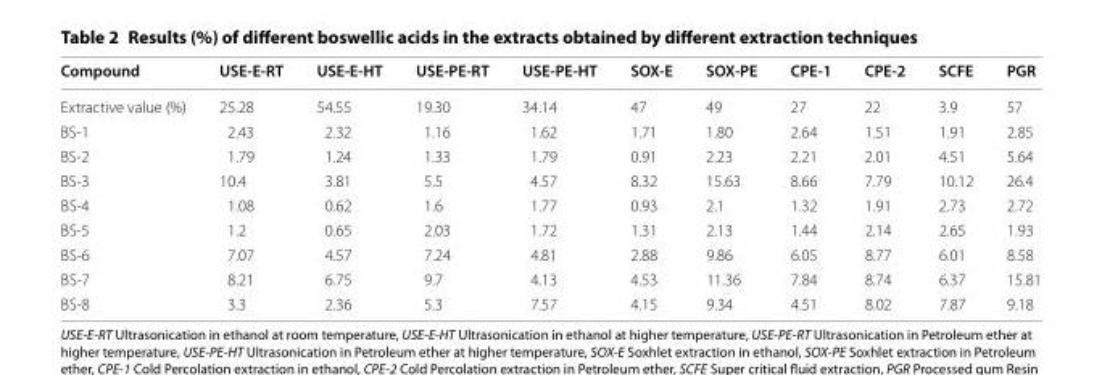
<table><thead><tr><td>Compound</td><td>USE-E-RT</td><td>USE-E-HT</td><td>USE-PE-RT</td><td>USE-PE-HT</td><td>SOX-E</td><td>SOX-PE</td><td>CPE-1</td><td>CPE-2</td><td>SCFE</td><td>PGR</td></tr></thead><tbody><tr><td>Extractive value (%)</td><td>25.28</td><td>54.55</td><td>19.30</td><td>34.14</td><td>47</td><td>49</td><td>27</td><td>22</td><td>3.9</td><td>57</td></tr><tr><td>BS-1</td><td>2.43</td><td>2.32</td><td>1.16</td><td>1.62</td><td>1.71</td><td>1.80</td><td>2.64</td><td>1.51</td><td>1.91</td><td>2.85</td></tr><tr><td>BS-2</td><td>1.79</td><td>1.24</td><td>1.33</td><td>1.79</td><td>0.91</td><td>2.23</td><td>2.21</td><td>2.01</td><td>4.51</td><td>5.64</td></tr><tr><td>BS-3</td><td>10.4</td><td>3.81</td><td>5.5</td><td>4.57</td><td>8.32</td><td>15.63</td><td>8.66</td><td>7.79</td><td>10.12</td><td>26.4</td></tr><tr><td>BS-4</td><td>1.08</td><td>0.62</td><td>1.6</td><td>1.77</td><td>0.93</td><td>2.1</td><td>1.32</td><td>1.91</td><td>2.73</td><td>2.72</td></tr><tr><td>BS-5</td><td>1.2</td><td>0.65</td><td>2.03</td><td>1.72</td><td>1.31</td><td>2.13</td><td>1.44</td><td>2.14</td><td>2.65</td><td>1.93</td></tr><tr><td>BS-6</td><td>7.07</td><td>4.57</td><td>7.24</td><td>4.81</td><td>2.88</td><td>9.86</td><td>6.05</td><td>8.77</td><td>6.01</td><td>8.58</td></tr><tr><td>BS-7</td><td>8.21</td><td>6.75</td><td>9.7</td><td>4.13</td><td>4.53</td><td>11.36</td><td>7.84</td><td>8.74</td><td>6.37</td><td>15.81</td></tr><tr><td>BS-8</td><td>3.3</td><td>2.36</td><td>5.3</td><td>7.57</td><td>4.15</td><td>9.34</td><td>4.51</td><td>8.02</td><td>7.87</td><td>9.18</td></tr></tbody></table>